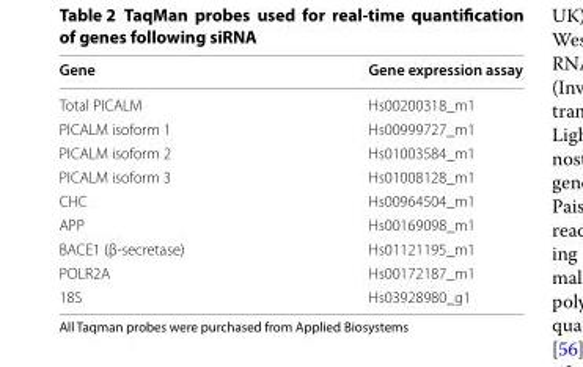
<table><thead><tr><td>Gene</td><td>Gene expression assay</td></tr></thead><tbody><tr><td>Total PICALM</td><td>Hs00200318_m1</td></tr><tr><td>PICALM isoform 1</td><td>Hs00999727_m1</td></tr><tr><td>PICALM isoform 2</td><td>Hs01003584_m1</td></tr><tr><td>PICALM isoform 3</td><td>Hs01008128_m1</td></tr><tr><td>CHC</td><td>Hs00964504_m1</td></tr><tr><td>APP</td><td>Hs00169098_m1</td></tr><tr><td>BACE1 (β-secretase)</td><td>Hs01121195_m1</td></tr><tr><td>POLR2A</td><td>Hs00172187_m1</td></tr><tr><td>18S</td><td>Hs03928980_g1</td></tr></tbody></table>